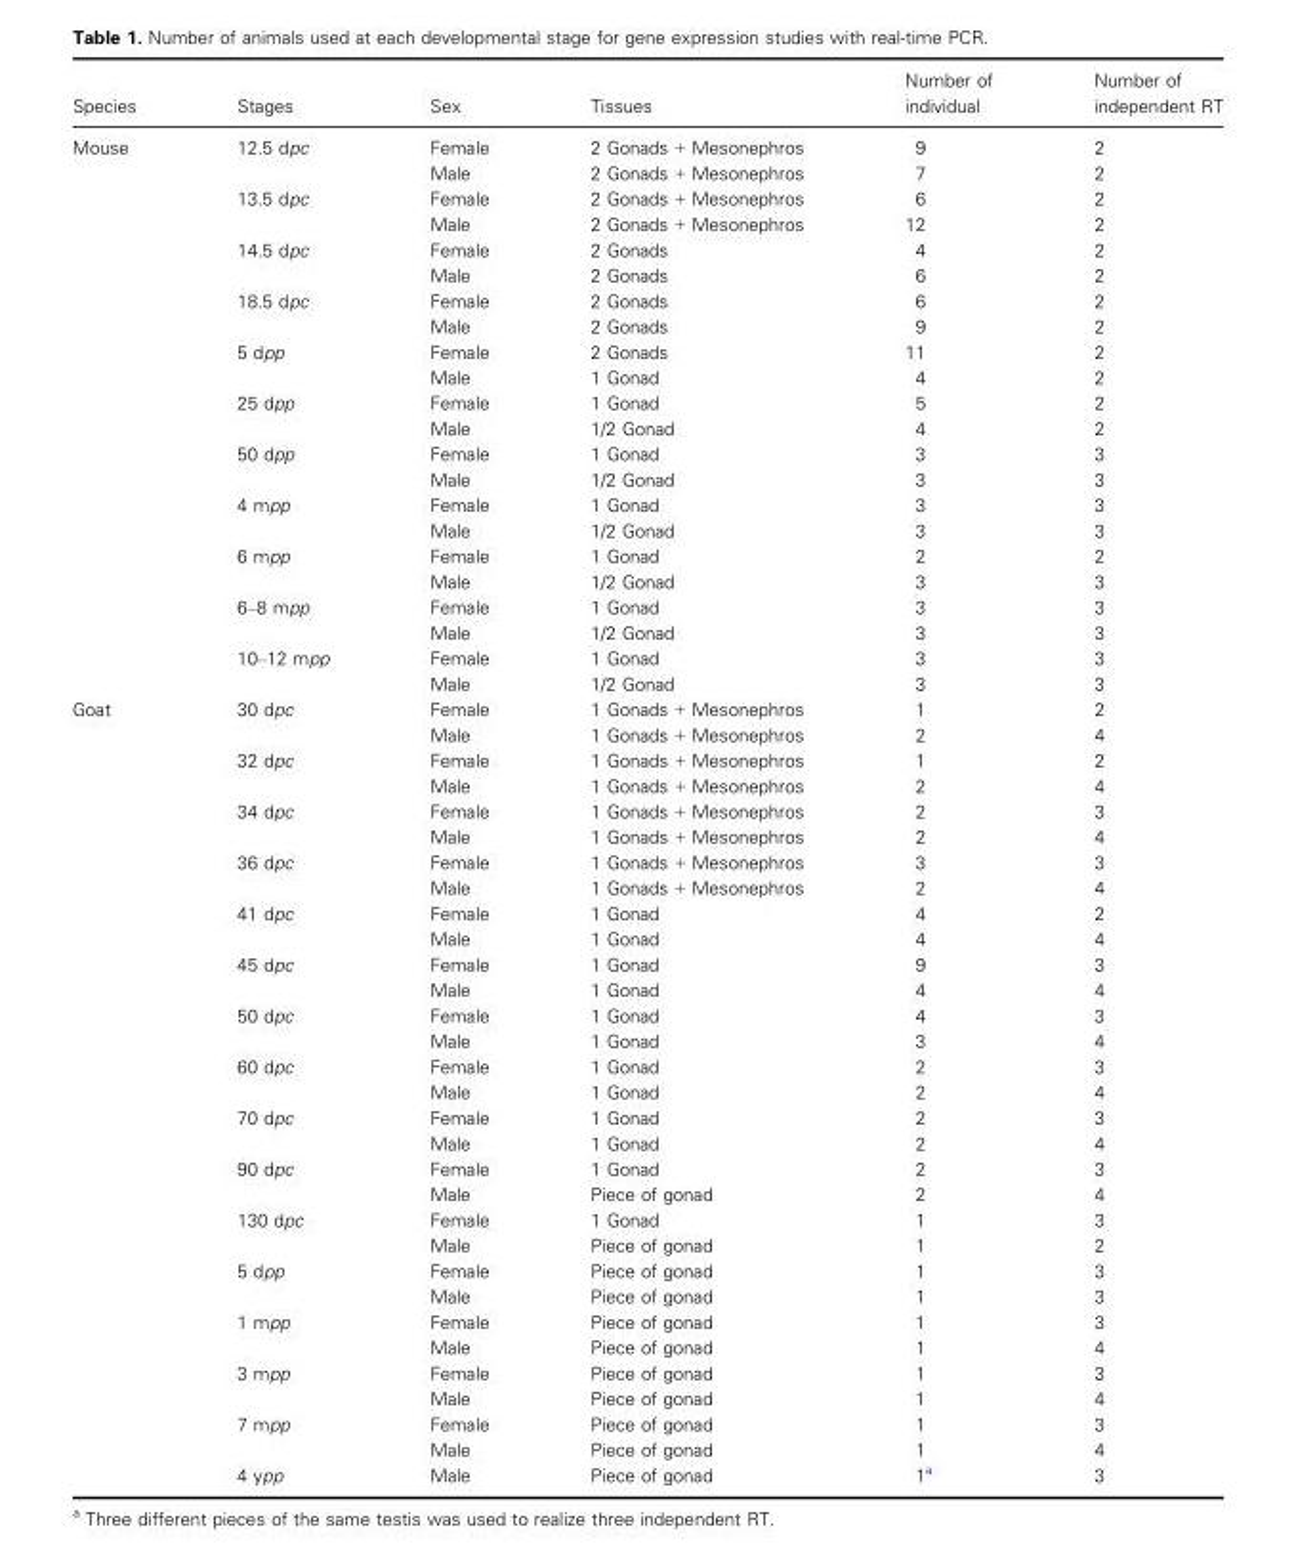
<table><thead><tr><td>Species</td><td>Stages</td><td>Sex</td><td>Tissues</td><td>Number of individual</td><td>Number of independent RT</td></tr></thead><tbody><tr><td rowspan="22">Mouse</td><td rowspan="2">12.5 dpc</td><td>Female</td><td>2 Gonads + Mesonephros</td><td>9</td><td>2</td></tr><tr><td>Male</td><td>2 Gonads + Mesonephros</td><td>7</td><td>2</td></tr><tr><td rowspan="2">13.5 dpc</td><td>Female</td><td>2 Gonads + Mesonephros</td><td>6</td><td>2</td></tr><tr><td>Male</td><td>2 Gonads + Mesonephros</td><td>12</td><td>2</td></tr><tr><td rowspan="2">14.5 dpc</td><td>Female</td><td>2 Gonads</td><td>4</td><td>2</td></tr><tr><td>Male</td><td>2 Gonads</td><td>6</td><td>2</td></tr><tr><td rowspan="2">18.5 dpc</td><td>Female</td><td>2 Gonads</td><td>6</td><td>2</td></tr><tr><td>Male</td><td>2 Gonads</td><td>9</td><td>2</td></tr><tr><td rowspan="2">5 dpp</td><td>Female</td><td>2 Gonads</td><td>11</td><td>2</td></tr><tr><td>Male</td><td>1 Gonad</td><td>4</td><td>2</td></tr><tr><td rowspan="2">25 dpp</td><td>Female</td><td>1 Gonad</td><td>5</td><td>2</td></tr><tr><td>Male</td><td>1/2 Gonad</td><td>4</td><td>2</td></tr><tr><td rowspan="2">50 dpp</td><td>Female</td><td>1 Gonad</td><td>3</td><td>3</td></tr><tr><td>Male</td><td>1/2 Gonad</td><td>3</td><td>3</td></tr><tr><td rowspan="2">4 mpp</td><td>Female</td><td>1 Gonad</td><td>3</td><td>3</td></tr><tr><td>Male</td><td>1/2 Gonad</td><td>3</td><td>3</td></tr><tr><td rowspan="2">6 mpp</td><td>Female</td><td>1 Gonad</td><td>2</td><td>2</td></tr><tr><td>Male</td><td>1/2 Gonad</td><td>3</td><td>3</td></tr><tr><td rowspan="2">6–8 mpp</td><td>Female</td><td>1 Gonad</td><td>3</td><td>3</td></tr><tr><td>Male</td><td>1/2 Gonad</td><td>3</td><td>3</td></tr><tr><td rowspan="2">10–12 mpp</td><td>Female</td><td>1 Gonad</td><td>3</td><td>3</td></tr><tr><td>Male</td><td>1/2 Gonad</td><td>3</td><td>3</td></tr><tr><td rowspan="31">Goat</td><td rowspan="2">30 dpc</td><td>Female</td><td>1 Gonads + Mesonephros</td><td>1</td><td>2</td></tr><tr><td>Male</td><td>1 Gonads + Mesonephros</td><td>2</td><td>4</td></tr><tr><td rowspan="2">32 dpc</td><td>Female</td><td>1 Gonads + Mesonephros</td><td>1</td><td>2</td></tr><tr><td>Male</td><td>1 Gonads + Mesonephros</td><td>2</td><td>4</td></tr><tr><td rowspan="2">34 dpc</td><td>Female</td><td>1 Gonads + Mesonephros</td><td>2</td><td>3</td></tr><tr><td>Male</td><td>1 Gonads + Mesonephros</td><td>2</td><td>4</td></tr><tr><td rowspan="2">36 dpc</td><td>Female</td><td>1 Gonads + Mesonephros</td><td>3</td><td>3</td></tr><tr><td>Male</td><td>1 Gonads + Mesonephros</td><td>2</td><td>4</td></tr><tr><td rowspan="2">41 dpc</td><td>Female</td><td>1 Gonad</td><td>4</td><td>2</td></tr><tr><td>Male</td><td>1 Gonad</td><td>4</td><td>4</td></tr><tr><td rowspan="2">45 dpc</td><td>Female</td><td>1 Gonad</td><td>9</td><td>3</td></tr><tr><td>Male</td><td>1 Gonad</td><td>4</td><td>4</td></tr><tr><td rowspan="2">50 dpc</td><td>Female</td><td>1 Gonad</td><td>4</td><td>3</td></tr><tr><td>Male</td><td>1 Gonad</td><td>3</td><td>4</td></tr><tr><td rowspan="2">60 dpc</td><td>Female</td><td>1 Gonad</td><td>2</td><td>3</td></tr><tr><td>Male</td><td>1 Gonad</td><td>2</td><td>4</td></tr><tr><td rowspan="2">70 dpc</td><td>Female</td><td>1 Gonad</td><td>2</td><td>3</td></tr><tr><td>Male</td><td>1 Gonad</td><td>2</td><td>4</td></tr><tr><td rowspan="2">90 dpc</td><td>Female</td><td>1 Gonad</td><td>2</td><td>3</td></tr><tr><td>Male</td><td>Piece of gonad</td><td>2</td><td>4</td></tr><tr><td rowspan="2">130 dpc</td><td>Female</td><td>1 Gonad</td><td>1</td><td>3</td></tr><tr><td>Male</td><td>Piece of gonad</td><td>1</td><td>2</td></tr><tr><td rowspan="2">5 dpp</td><td>Female</td><td>Piece of gonad</td><td>1</td><td>3</td></tr><tr><td>Male</td><td>Piece of gonad</td><td>1</td><td>3</td></tr><tr><td rowspan="2">1 mpp</td><td>Female</td><td>Piece of gonad</td><td>1</td><td>3</td></tr><tr><td>Male</td><td>Piece of gonad</td><td>1</td><td>4</td></tr><tr><td rowspan="2">3 mpp</td><td>Female</td><td>Piece of gonad</td><td>1</td><td>3</td></tr><tr><td>Male</td><td>Piece of gonad</td><td>1</td><td>4</td></tr><tr><td rowspan="2">7 mpp</td><td>Female</td><td>Piece of gonad</td><td>1</td><td>3</td></tr><tr><td>Male</td><td>Piece of gonad</td><td>1</td><td>4</td></tr><tr><td>4 ypp</td><td>Male</td><td>Piece of gonad</td><td>1<sup>a</sup></td><td>3</td></tr></tbody></table>